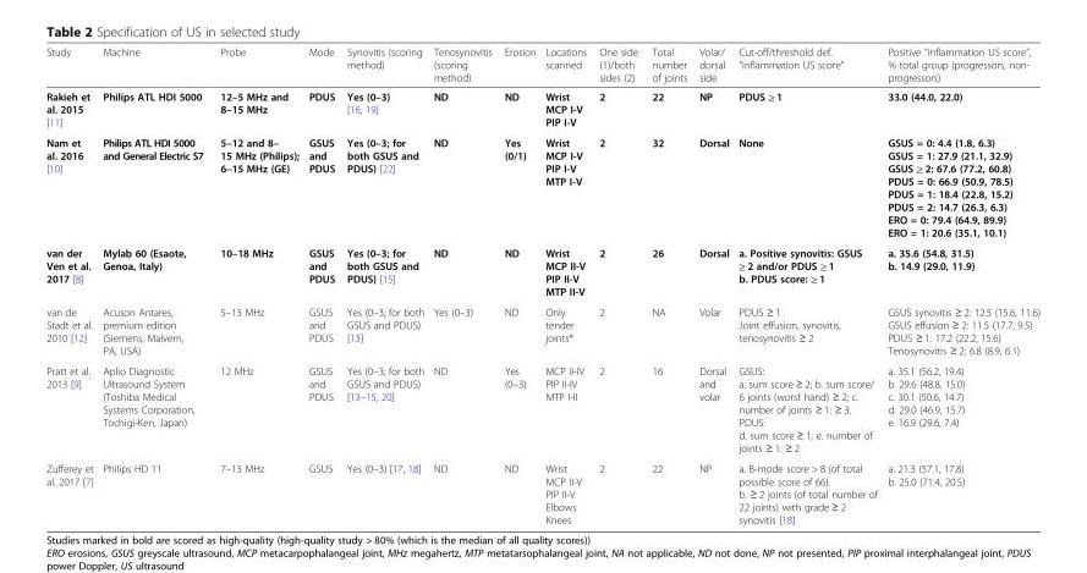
<table><thead><tr><td>Study</td><td>Machine</td><td>Probe</td><td>Mode</td><td>Synovitis (scoring method)</td><td>Tenosynovitis (scoring method)</td><td>Erosion</td><td>Locations scanned</td><td>One side (1)/both sides (2)</td><td>Total number of joints</td><td>Volar/ dorsal side</td><td>Cut-off/threshold def. “inflammation US score”</td><td>Positive “inflammation US score”, % total group (progressors, non- progressors)</td></tr></thead><tbody><tr><td>Rakieh et al. 2015 [11]</td><td>Philips ATL HDI 5000</td><td>12–5 MHz and 8–15 MHz</td><td>PDUS</td><td>Yes (0–3) [16, 19]</td><td>ND</td><td>ND</td><td>Wrist MCP I-V PIP I-V</td><td>2</td><td>22</td><td>NP</td><td>PDUS ≥ 1</td><td>33.0 (44.0, 22.0)</td></tr><tr><td>Nam et al. 2016 [10]</td><td>Philips ATL HDI 5000 and General Electric S7</td><td>5–12 and 8– 15 MHz (Philips); 6–15 MHz (GE)</td><td>GSUS and PDUS</td><td>Yes (0–3; for both GSUS and PDUS) [22]</td><td>ND</td><td>Yes (0/1)</td><td>Wrist MCP I-V PIP I-V MTP I-V</td><td>2</td><td>32</td><td>Dorsal</td><td>None</td><td>GSUS = 0: 4.4 (1.8, 6.3) GSUS = 1: 27.9 (21.1, 32.9) GSUS ≥ 2: 67.6 (77.2, 60.8) PDUS = 0: 66.9 (50.9, 78.5) PDUS = 1: 18.4 (22.8, 15.2) PDUS = 2: 14.7 (26.3, 6.3) ERO = 0: 79.4 (64.9, 89.9) ERO = 1: 20.6 (35.1, 10.1)</td></tr><tr><td>van der Ven et al. 2017 [8]</td><td>Mylab 60 (Esaote, Genoa, Italy)</td><td>10–18 MHz</td><td>GSUS and PDUS</td><td>Yes (0–3; for both GSUS and PDUS) [15]</td><td>ND</td><td>ND</td><td>Wrist MCP II-V PIP II-V MTP II-V</td><td>2</td><td>26</td><td>Dorsal</td><td>a. Positive synovitis: GSUS ≥ 2 and/or PDUS ≥ 1 b. PDUS score: ≥ 1</td><td>a. 35.6 (54.8, 31.5) b. 14.9 (29.0, 11.9)</td></tr><tr><td>van de Stadt et al. 2010 [12]</td><td>Acuson Antares, premium edition (Siemens, Malvern, PA, USA)</td><td>5–13 MHz</td><td>GSUS and PDUS</td><td>Yes (0–3; for both GSUS and PDUS) [13]</td><td>Yes (0–3)</td><td>ND</td><td>Only tender joints*</td><td>2</td><td>NA</td><td>Volar</td><td>PDUS ≥ 1 Joint effusion, synovitis, tenosynovitis ≥ 2</td><td>GSUS synovitis ≥ 2: 12.5 (15.6, 11.6) GSUS effusion ≥ 2: 11.5 (17.7, 9.5) PDUS ≥ 1: 17.2 (22.2, 15.6) Tenosynovitis ≥ 2: 6.8 (8.9, 6.1)</td></tr><tr><td>Pratt et al. 2013 [9]</td><td>Aplio Diagnostic Ultrasound System (Toshiba Medical Systems Corporation, Tochigi-Ken, Japan)</td><td>12 MHz</td><td>GSUS and PDUS</td><td>Yes (0–3; for both GSUS and PDUS) [13–15, 20]</td><td>ND</td><td>Yes (0–3)</td><td>MCP II-IV PIP II-IV MTP I-II</td><td>2</td><td>16</td><td>Dorsal and volar</td><td>GSUS: a. sum score ≥ 2; b. sum score/ 6 joints (worst hand) ≥ 2; c. number of joints ≥ 1: ≥ 3. PDUS: d. sum score ≥ 1; e. number of joints ≥ 1: ≥ 2</td><td>a. 35.1 (56.2, 19.4) b. 29.6 (48.8, 15.0) c. 30.1 (50.6, 14.7) d. 29.0 (46.9, 15.7) e. 16.9 (29.6, 7.4)</td></tr><tr><td>Zufferey et al. 2017 [7]</td><td>Philips HD 11</td><td>7–13 MHz</td><td>GSUS</td><td>Yes (0–3) [17, 18]</td><td>ND</td><td>ND</td><td>Wrist MCP II-V PIP II-V Elbows Knees</td><td>2</td><td>22</td><td>NP</td><td>a. B-mode score &gt; 8 (of total possible score of 66). b. ≥ 2 joints (of total number of 22 joints) with grade ≥ 2 synovitis [18]</td><td>a. 21.3 (57.1, 17.8) b. 25.0 (71.4, 20.5)</td></tr></tbody></table>